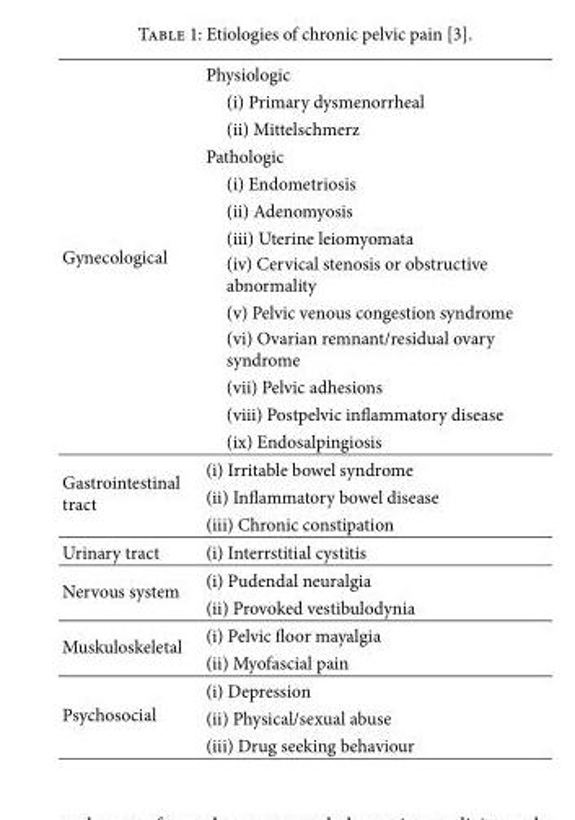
<table><tbody><tr><td rowspan="13">Gynecological</td><td>Physiologic</td></tr><tr><td>(i) Primary dysmenorrheal</td></tr><tr><td>(ii) Mittelschmerz</td></tr><tr><td>Pathologic</td></tr><tr><td>(i) Endometriosis</td></tr><tr><td>(ii) Adenomyosis</td></tr><tr><td>(iii) Uterine leiomyomata</td></tr><tr><td>(iv) Cervical stenosis or obstructive abnormality</td></tr><tr><td>(v) Pelvic venous congestion syndrome</td></tr><tr><td>(vi) Ovarian remnant/residual ovary syndrome</td></tr><tr><td>(vii) Pelvic adhesions</td></tr><tr><td>(viii) Postpelvic in�ammatory disease</td></tr><tr><td>(ix) Endosalpingiosis</td></tr><tr><td rowspan="3">Gastrointestinal tract</td><td>(i) Irritable bowel syndrome</td></tr><tr><td>(ii) In�ammatory bowel disease</td></tr><tr><td>(iii) Chronic constipation</td></tr><tr><td>Urinary tract</td><td>(i) Interrstitial cystitis</td></tr><tr><td rowspan="2">Nervous system</td><td>(i) Pudendal neuralgia</td></tr><tr><td>(ii) Provoked vestibulodynia</td></tr><tr><td rowspan="2">Muskuloskeletal</td><td>(i) Pelvic �oor mayalgia</td></tr><tr><td>(ii) Myofascial pain</td></tr><tr><td rowspan="3">Psychosocial</td><td>(i) Depression</td></tr><tr><td>(ii) Physical/sexual abuse</td></tr><tr><td>(iii) Drug seeking behaviour</td></tr></tbody></table>